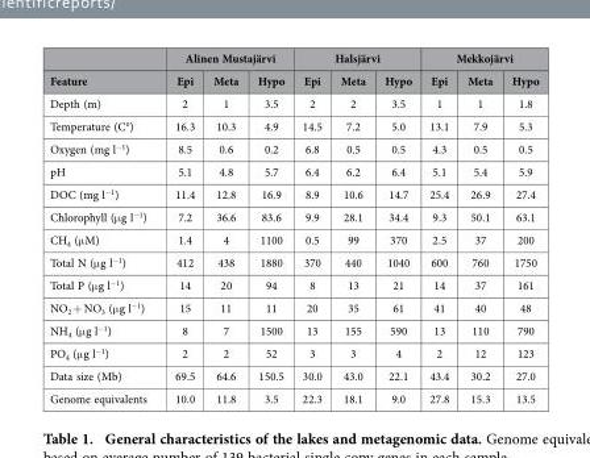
<table><thead><tr><td rowspan="2">Feature</td><td colspan="3">Alinen Mustajärvi</td><td colspan="3">Halsjärvi</td><td colspan="3">Mekkojärvi</td></tr><tr><td>Epi</td><td>Meta</td><td>Hypo</td><td>Epi</td><td>Meta</td><td>Hypo</td><td>Epi</td><td>Meta</td><td>Hypo</td></tr></thead><tbody><tr><td>Depth (m)</td><td>2</td><td>1</td><td>3.5</td><td>2</td><td>2</td><td>3.5</td><td>1</td><td>1</td><td>1.8</td></tr><tr><td>Temperature (C°)</td><td>16.3</td><td>10.3</td><td>4.9</td><td>14.5</td><td>7.2</td><td>5.0</td><td>13.1</td><td>7.9</td><td>5.3</td></tr><tr><td>Oxygen (mg l<sup>−1</sup>)</td><td>8.5</td><td>0.6</td><td>0.2</td><td>6.8</td><td>0.5</td><td>0.5</td><td>4.3</td><td>0.5</td><td>0.5</td></tr><tr><td>pH</td><td>5.1</td><td>4.8</td><td>5.7</td><td>6.4</td><td>6.2</td><td>6.4</td><td>5.1</td><td>5.4</td><td>5.9</td></tr><tr><td>DOC (mg l<sup>−1</sup>)</td><td>11.4</td><td>12.8</td><td>16.9</td><td>8.9</td><td>10.6</td><td>14.7</td><td>25.4</td><td>26.9</td><td>27.4</td></tr><tr><td>Chlorophyll (μ g l<sup>−1</sup>)</td><td>7.2</td><td>36.6</td><td>83.6</td><td>9.9</td><td>28.1</td><td>34.4</td><td>9.3</td><td>50.1</td><td>63.1</td></tr><tr><td>CH<sub>4</sub> (μ M)</td><td>1.4</td><td>4</td><td>1100</td><td>0.5</td><td>99</td><td>370</td><td>2.5</td><td>37</td><td>200</td></tr><tr><td>Total N (μ g l<sup>−1</sup>)</td><td>412</td><td>438</td><td>1880</td><td>370</td><td>440</td><td>1040</td><td>600</td><td>760</td><td>1750</td></tr><tr><td>Total P (μ g l<sup>−1</sup>)</td><td>14</td><td>20</td><td>94</td><td>8</td><td>13</td><td>21</td><td>14</td><td>37</td><td>161</td></tr><tr><td>NO<sub>2</sub> + NO<sub>3</sub> (μ g l<sup>−1</sup>)</td><td>15</td><td>11</td><td>11</td><td>20</td><td>35</td><td>61</td><td>41</td><td>40</td><td>48</td></tr><tr><td>NH<sub>4</sub> (μ g l<sup>−1</sup>)</td><td>8</td><td>7</td><td>1500</td><td>13</td><td>155</td><td>590</td><td>13</td><td>110</td><td>790</td></tr><tr><td>PO<sub>4</sub> (μ g l<sup>−1</sup>)</td><td>2</td><td>2</td><td>52</td><td>3</td><td>3</td><td>4</td><td>2</td><td>12</td><td>123</td></tr><tr><td>Data size (Mb)</td><td>69.5</td><td>64.6</td><td>150.5</td><td>30.0</td><td>43.0</td><td>22.1</td><td>43.4</td><td>30.2</td><td>27.0</td></tr><tr><td>Genome equivalents</td><td>10.0</td><td>11.8</td><td>3.5</td><td>22.3</td><td>18.1</td><td>9.0</td><td>27.8</td><td>15.3</td><td>13.5</td></tr></tbody></table>